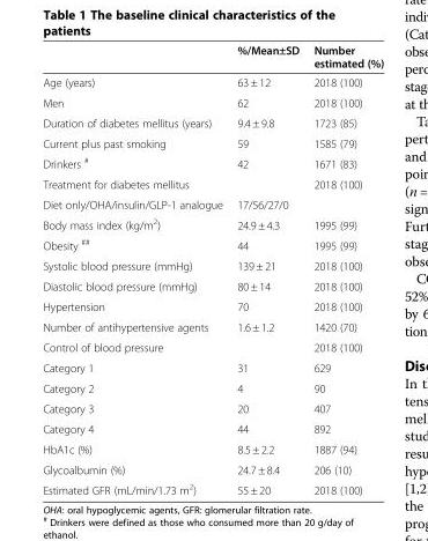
<table><thead><tr><td></td><td>%/Mean±SD</td><td>Number estimated (%)</td></tr></thead><tbody><tr><td>Age (years)</td><td>63 ± 12</td><td>2018 (100)</td></tr><tr><td>Men</td><td>62</td><td>2018 (100)</td></tr><tr><td>Duration of diabetes mellitus (years)</td><td>9.4 ± 9.8</td><td>1723 (85)</td></tr><tr><td>Current plus past smoking</td><td>59</td><td>1585 (79)</td></tr><tr><td>Drinkers <sup>#</sup></td><td>42</td><td>1671 (83)</td></tr><tr><td>Treatment for diabetes mellitus</td><td></td><td>2018 (100)</td></tr><tr><td>Diet only/OHA/insulin/GLP-1 analogue</td><td>17/56/27/0</td><td></td></tr><tr><td>Body mass index (kg/m<sup>2</sup>)</td><td>24.9 ± 4.3</td><td>1995 (99)</td></tr><tr><td>Obesity <sup>##</sup></td><td>44</td><td>1995 (99)</td></tr><tr><td>Systolic blood pressure (mmHg)</td><td>139 ± 21</td><td>2018 (100)</td></tr><tr><td>Diastolic blood pressure (mmHg)</td><td>80 ± 14</td><td>2018 (100)</td></tr><tr><td>Hypertension</td><td>70</td><td>2018 (100)</td></tr><tr><td>Number of antihypertensive agents</td><td>1.6 ± 1.2</td><td>1420 (70)</td></tr><tr><td>Control of blood pressure</td><td></td><td>2018 (100)</td></tr><tr><td>Category 1</td><td>31</td><td>629</td></tr><tr><td>Category 2</td><td>4</td><td>90</td></tr><tr><td>Category 3</td><td>20</td><td>407</td></tr><tr><td>Category 4</td><td>44</td><td>892</td></tr><tr><td>HbA1c (%)</td><td>8.5 ± 2.2</td><td>1887 (94)</td></tr><tr><td>Glycoalbumin (%)</td><td>24.7 ± 8.4</td><td>206 (10)</td></tr><tr><td>Estimated GFR (mL/min/1.73 m<sup>2</sup>)</td><td>55 ± 20</td><td>2018 (100)</td></tr></tbody></table>